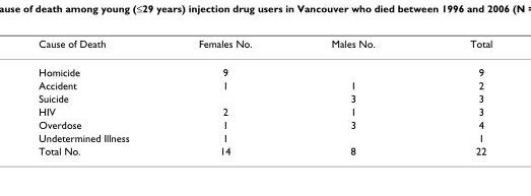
<table><thead><tr><td>Cause of Death</td><td>Females No.</td><td>Males No.</td><td>Total</td></tr></thead><tbody><tr><td>Homicide</td><td>9</td><td></td><td>9</td></tr><tr><td>Accident</td><td>1</td><td>1</td><td>2</td></tr><tr><td>Suicide</td><td></td><td>3</td><td>3</td></tr><tr><td>HIV</td><td>2</td><td>1</td><td>3</td></tr><tr><td>Overdose</td><td>1</td><td>3</td><td>4</td></tr><tr><td>Undetermined Illness</td><td>1</td><td></td><td>1</td></tr><tr><td>Total No.</td><td>14</td><td>8</td><td>22</td></tr></tbody></table>